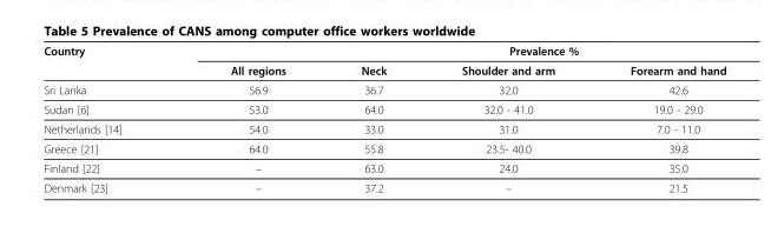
<table><thead><tr><td rowspan="2">Country</td><td rowspan="2">All regions</td><td colspan="3">Prevalence %</td></tr><tr><td>Neck</td><td>Shoulder and arm</td><td>Forearm and hand</td></tr></thead><tbody><tr><td>Sri Lanka</td><td>56.9</td><td>36.7</td><td>32.0</td><td>42.6</td></tr><tr><td>Sudan [6]</td><td>53.0</td><td>64.0</td><td>32.0 - 41.0</td><td>19.0 - 29.0</td></tr><tr><td>Netherlands [14]</td><td>54.0</td><td>33.0</td><td>31.0</td><td>7.0 - 11.0</td></tr><tr><td>Greece [21]</td><td>64.0</td><td>55.8</td><td>23.5- 40.0</td><td>39.8</td></tr><tr><td>Finland [22]</td><td>–</td><td>63.0</td><td>24.0</td><td>35.0</td></tr><tr><td>Denmark [23]</td><td>–</td><td>37.2</td><td>–</td><td>21.5</td></tr></tbody></table>